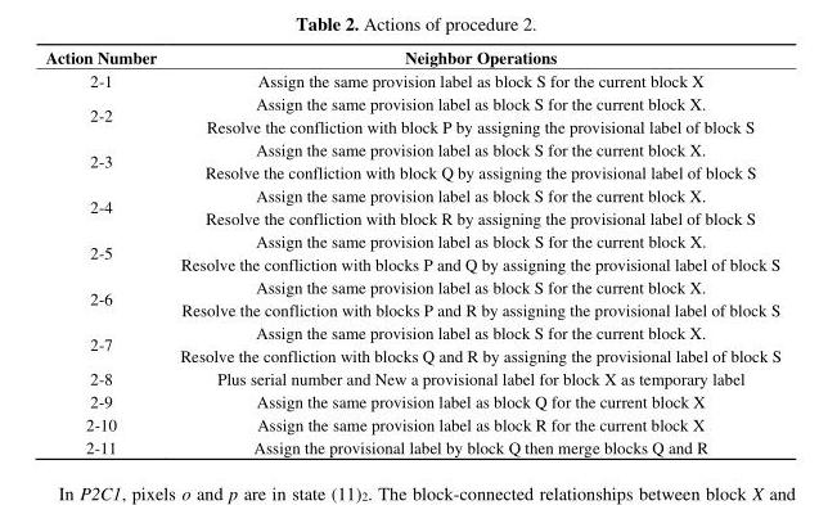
<table><thead><tr><td>Action Number</td><td>Neighbor Operations</td></tr></thead><tbody><tr><td>2-1</td><td>Assign the same provision label as block S for the current block X</td></tr><tr><td>2-2</td><td>Assign the same provision label as block S for the current block X. Resolve the confliction with block P by assigning the provisional label of block S</td></tr><tr><td>2-3</td><td>Assign the same provision label as block S for the current block X. Resolve the confliction with block Q by assigning the provisional label of block S</td></tr><tr><td>2-4</td><td>Assign the same provision label as block S for the current block X. Resolve the confliction with block R by assigning the provisional label of block S</td></tr><tr><td>2-5</td><td>Assign the same provision label as block S for the current block X. Resolve the confliction with blocks P and Q by assigning the provisional label of block S</td></tr><tr><td>2-6</td><td>Assign the same provision label as block S for the current block X. Resolve the confliction with blocks P and R by assigning the provisional label of block S</td></tr><tr><td>2-7</td><td>Assign the same provision label as block S for the current block X. Resolve the confliction with blocks Q and R by assigning the provisional label of block S</td></tr><tr><td>2-8</td><td>Plus serial number and New a provisional label for block X as temporary label</td></tr><tr><td>2-9</td><td>Assign the same provision label as block Q for the current block X</td></tr><tr><td>2-10</td><td>Assign the same provision label as block R for the current block X</td></tr><tr><td>2-11</td><td>Assign the provisional label by block Q then merge blocks Q and R</td></tr></tbody></table>